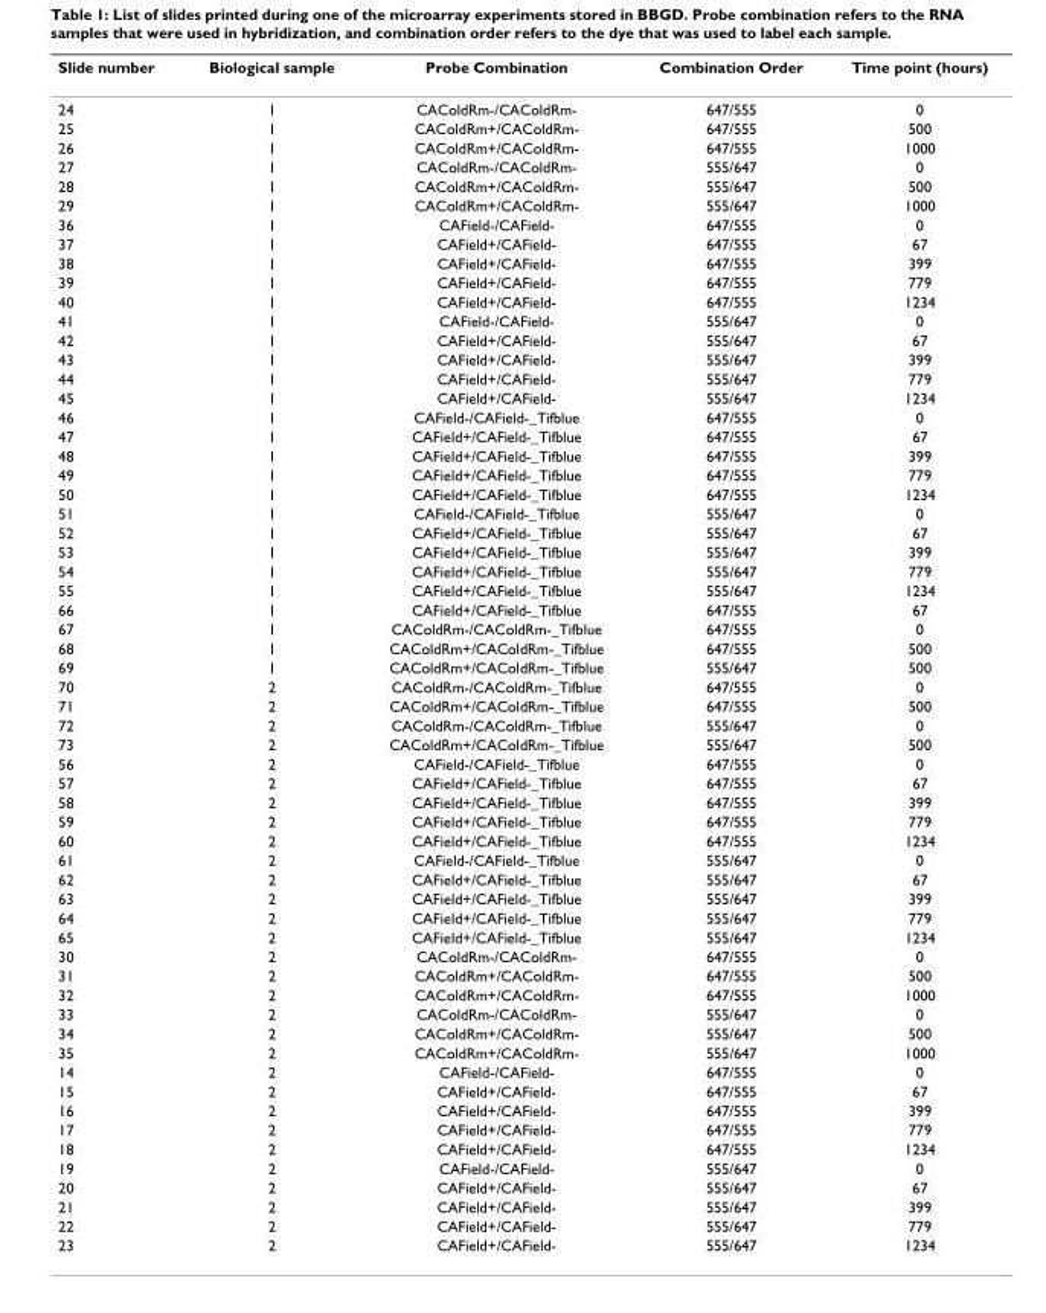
<table><thead><tr><td>Slide number</td><td>Biological sample</td><td>Probe Combination</td><td>Combination Order</td><td>Time point (hours)</td></tr></thead><tbody><tr><td>24</td><td>1</td><td>CAColdRm-/CAColdRm-</td><td>647/555</td><td>0</td></tr><tr><td>25</td><td>1</td><td>CAColdRm+/CAColdRm-</td><td>647/555</td><td>500</td></tr><tr><td>26</td><td>1</td><td>CAColdRm+/CAColdRm-</td><td>647/555</td><td>1000</td></tr><tr><td>27</td><td>1</td><td>CAColdRm-/CAColdRm-</td><td>555/647</td><td>0</td></tr><tr><td>28</td><td>1</td><td>CAColdRm+/CAColdRm-</td><td>555/647</td><td>500</td></tr><tr><td>29</td><td>1</td><td>CAColdRm+/CAColdRm-</td><td>555/647</td><td>1000</td></tr><tr><td>36</td><td>1</td><td>CAField-/CAField-</td><td>647/555</td><td>0</td></tr><tr><td>37</td><td>1</td><td>CAField+/CAField-</td><td>647/555</td><td>67</td></tr><tr><td>38</td><td>1</td><td>CAField+/CAField-</td><td>647/555</td><td>399</td></tr><tr><td>39</td><td>1</td><td>CAField+/CAField-</td><td>647/555</td><td>779</td></tr><tr><td>40</td><td>1</td><td>CAField+/CAField-</td><td>647/555</td><td>1234</td></tr><tr><td>41</td><td>1</td><td>CAField-/CAField-</td><td>555/647</td><td>0</td></tr><tr><td>42</td><td>1</td><td>CAField+/CAField-</td><td>555/647</td><td>67</td></tr><tr><td>43</td><td>1</td><td>CAField+/CAField-</td><td>555/647</td><td>399</td></tr><tr><td>44</td><td>1</td><td>CAField+/CAField-</td><td>555/647</td><td>779</td></tr><tr><td>45</td><td>1</td><td>CAField+/CAField-</td><td>555/647</td><td>1234</td></tr><tr><td>46</td><td>1</td><td>CAField-/CAField-_Tifblue</td><td>647/555</td><td>0</td></tr><tr><td>47</td><td>1</td><td>CAField+/CAField-_Tifblue</td><td>647/555</td><td>67</td></tr><tr><td>48</td><td>1</td><td>CAField+/CAField-_Tifblue</td><td>647/555</td><td>399</td></tr><tr><td>49</td><td>1</td><td>CAField+/CAField-_Tifblue</td><td>647/555</td><td>779</td></tr><tr><td>50</td><td>1</td><td>CAField+/CAField-_Tifblue</td><td>647/555</td><td>1234</td></tr><tr><td>51</td><td>1</td><td>CAField-/CAField-_Tifblue</td><td>555/647</td><td>0</td></tr><tr><td>52</td><td>1</td><td>CAField+/CAField-_Tifblue</td><td>555/647</td><td>67</td></tr><tr><td>53</td><td>1</td><td>CAField+/CAField-_Tifblue</td><td>555/647</td><td>399</td></tr><tr><td>54</td><td>1</td><td>CAField+/CAField-_Tifblue</td><td>555/647</td><td>779</td></tr><tr><td>55</td><td>1</td><td>CAField+/CAField-_Tifblue</td><td>555/647</td><td>1234</td></tr><tr><td>66</td><td>1</td><td>CAField+/CAField-_Tifblue</td><td>647/555</td><td>67</td></tr><tr><td>67</td><td>1</td><td>CAColdRm-/CAColdRm-_Tifblue</td><td>647/555</td><td>0</td></tr><tr><td>68</td><td>1</td><td>CAColdRm+/CAColdRm-_Tifblue</td><td>647/555</td><td>500</td></tr><tr><td>69</td><td>1</td><td>CAColdRm+/CAColdRm-_Tifblue</td><td>555/647</td><td>500</td></tr><tr><td>70</td><td>2</td><td>CAColdRm-/CAColdRm-_Tifblue</td><td>647/555</td><td>0</td></tr><tr><td>71</td><td>2</td><td>CAColdRm+/CAColdRm-_Tifblue</td><td>647/555</td><td>500</td></tr><tr><td>72</td><td>2</td><td>CAColdRm-/CAColdRm-_Tifblue</td><td>555/647</td><td>0</td></tr><tr><td>73</td><td>2</td><td>CAColdRm+/CAColdRm-_Tifblue</td><td>555/647</td><td>500</td></tr><tr><td>56</td><td>2</td><td>CAField-/CAField-_Tifblue</td><td>647/555</td><td>0</td></tr><tr><td>57</td><td>2</td><td>CAField+/CAField-_Tifblue</td><td>647/555</td><td>67</td></tr><tr><td>58</td><td>2</td><td>CAField+/CAField-_Tifblue</td><td>647/555</td><td>399</td></tr><tr><td>59</td><td>2</td><td>CAField+/CAField-_Tifblue</td><td>647/555</td><td>779</td></tr><tr><td>60</td><td>2</td><td>CAField+/CAField-_Tifblue</td><td>647/555</td><td>1234</td></tr><tr><td>61</td><td>2</td><td>CAField-/CAField-_Tifblue</td><td>555/647</td><td>0</td></tr><tr><td>62</td><td>2</td><td>CAField+/CAField-_Tifblue</td><td>555/647</td><td>67</td></tr><tr><td>63</td><td>2</td><td>CAField+/CAField-_Tifblue</td><td>555/647</td><td>399</td></tr><tr><td>64</td><td>2</td><td>CAField+/CAField-_Tifblue</td><td>555/647</td><td>779</td></tr><tr><td>65</td><td>2</td><td>CAField+/CAField-_Tifblue</td><td>555/647</td><td>1234</td></tr><tr><td>30</td><td>2</td><td>CAColdRm-/CAColdRm-</td><td>647/555</td><td>0</td></tr><tr><td>31</td><td>2</td><td>CAColdRm+/CAColdRm-</td><td>647/555</td><td>500</td></tr><tr><td>32</td><td>2</td><td>CAColdRm+/CAColdRm-</td><td>647/555</td><td>1000</td></tr><tr><td>33</td><td>2</td><td>CAColdRm-/CAColdRm-</td><td>555/647</td><td>0</td></tr><tr><td>34</td><td>2</td><td>CAColdRm+/CAColdRm-</td><td>555/647</td><td>500</td></tr><tr><td>35</td><td>2</td><td>CAColdRm+/CAColdRm-</td><td>555/647</td><td>1000</td></tr><tr><td>14</td><td>2</td><td>CAField-/CAField-</td><td>647/555</td><td>0</td></tr><tr><td>15</td><td>2</td><td>CAField+/CAField-</td><td>647/555</td><td>67</td></tr><tr><td>16</td><td>2</td><td>CAField+/CAField-</td><td>647/555</td><td>399</td></tr><tr><td>17</td><td>2</td><td>CAField+/CAField-</td><td>647/555</td><td>779</td></tr><tr><td>18</td><td>2</td><td>CAField+/CAField-</td><td>647/555</td><td>1234</td></tr><tr><td>19</td><td>2</td><td>CAField-/CAField-</td><td>555/647</td><td>0</td></tr><tr><td>20</td><td>2</td><td>CAField+/CAField-</td><td>555/647</td><td>67</td></tr><tr><td>21</td><td>2</td><td>CAField+/CAField-</td><td>555/647</td><td>399</td></tr><tr><td>22</td><td>2</td><td>CAField+/CAField-</td><td>555/647</td><td>779</td></tr><tr><td>23</td><td>2</td><td>CAField+/CAField-</td><td>555/647</td><td>1234</td></tr></tbody></table>